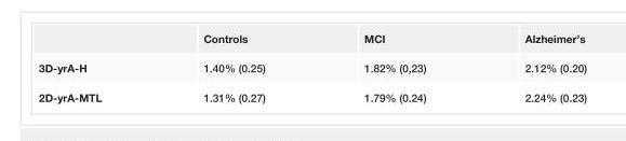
<table><thead><tr><td></td><td>Controls</td><td>MCI</td><td>Alzheimer’s</td></tr></thead><tbody><tr><td>3D-yrA-H</td><td>1.40% (0.25)</td><td>1.82% (0,23)</td><td>2.12% (0.20)</td></tr><tr><td>2D-yrA-MTL</td><td>1.31% (0.27)</td><td>1.79% (0.24)</td><td>2.24% (0.23)</td></tr></tbody></table>